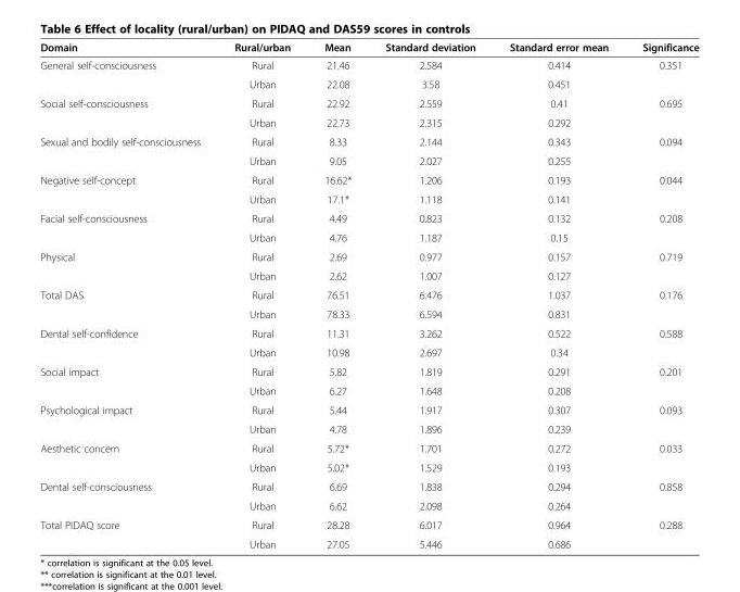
<table><thead><tr><td>Domain</td><td>Rural/urban</td><td>Mean</td><td>Standard deviation</td><td>Standard error mean</td><td>Significance</td></tr></thead><tbody><tr><td rowspan="2">General self-consciousness</td><td>Rural</td><td>21.46</td><td>2.584</td><td>0.414</td><td rowspan="2">0.351</td></tr><tr><td>Urban</td><td>22.08</td><td>3.58</td><td>0.451</td></tr><tr><td rowspan="2">Social self-consciousness</td><td>Rural</td><td>22.92</td><td>2.559</td><td>0.41</td><td rowspan="2">0.695</td></tr><tr><td>Urban</td><td>22.73</td><td>2.315</td><td>0.292</td></tr><tr><td rowspan="2">Sexual and bodily self-consciousness</td><td>Rural</td><td>8.33</td><td>2.144</td><td>0.343</td><td rowspan="2">0.094</td></tr><tr><td>Urban</td><td>9.05</td><td>2.027</td><td>0.255</td></tr><tr><td rowspan="2">Negative self-concept</td><td>Rural</td><td>16.62*</td><td>1.206</td><td>0.193</td><td rowspan="2">0.044</td></tr><tr><td>Urban</td><td>17.1*</td><td>1.118</td><td>0.141</td></tr><tr><td rowspan="2">Facial self-consciousness</td><td>Rural</td><td>4.49</td><td>0.823</td><td>0.132</td><td rowspan="2">0.208</td></tr><tr><td>Urban</td><td>4.76</td><td>1.187</td><td>0.15</td></tr><tr><td rowspan="2">Physical</td><td>Rural</td><td>2.69</td><td>0.977</td><td>0.157</td><td rowspan="2">0.719</td></tr><tr><td>Urban</td><td>2.62</td><td>1.007</td><td>0.127</td></tr><tr><td rowspan="2">Total DAS</td><td>Rural</td><td>76.51</td><td>6.476</td><td>1.037</td><td rowspan="2">0.176</td></tr><tr><td>Urban</td><td>78.33</td><td>6.594</td><td>0.831</td></tr><tr><td rowspan="2">Dental self-confidence</td><td>Rural</td><td>11.31</td><td>3.262</td><td>0.522</td><td rowspan="2">0.588</td></tr><tr><td>Urban</td><td>10.98</td><td>2.697</td><td>0.34</td></tr><tr><td rowspan="2">Social impact</td><td>Rural</td><td>5.82</td><td>1.819</td><td>0.291</td><td rowspan="2">0.201</td></tr><tr><td>Urban</td><td>6.27</td><td>1.648</td><td>0.208</td></tr><tr><td rowspan="2">Psychological impact</td><td>Rural</td><td>5.44</td><td>1.917</td><td>0.307</td><td rowspan="2">0.093</td></tr><tr><td>Urban</td><td>4.78</td><td>1.896</td><td>0.239</td></tr><tr><td rowspan="2">Aesthetic concern</td><td>Rural</td><td>5.72*</td><td>1.701</td><td>0.272</td><td rowspan="2">0.033</td></tr><tr><td>Urban</td><td>5.02*</td><td>1.529</td><td>0.193</td></tr><tr><td rowspan="2">Dental self-consciousness</td><td>Rural</td><td>6.69</td><td>1.838</td><td>0.294</td><td rowspan="2">0.858</td></tr><tr><td>Urban</td><td>6.62</td><td>2.098</td><td>0.264</td></tr><tr><td rowspan="2">Total PIDAQ score</td><td>Rural</td><td>28.28</td><td>6.017</td><td>0.964</td><td rowspan="2">0.288</td></tr><tr><td>Urban</td><td>27.05</td><td>5.446</td><td>0.686</td></tr></tbody></table>